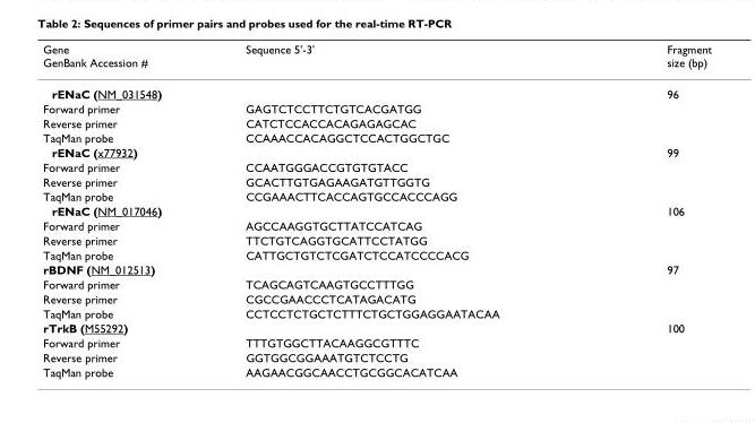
<table><thead><tr><td>Gene GenBank Accession #</td><td>Sequence 5&#x27;-3&#x27;</td><td>Fragment size (bp)</td></tr></thead><tbody><tr><td>rENaC (NM_031548)</td><td></td><td>96</td></tr><tr><td>Forward primer</td><td>GAGTCTCCTTCTGTCACGATGG</td><td></td></tr><tr><td>Reverse primer</td><td>CATCTCCACCACAGAGAGCAC</td><td></td></tr><tr><td>TaqMan probe</td><td>CCAAACCACAGGCTCCACTGGCTGC</td><td></td></tr><tr><td>rENaC (x77932)</td><td></td><td>99</td></tr><tr><td>Forward primer</td><td>CCAATGGGACCGTGTGTACC</td><td></td></tr><tr><td>Reverse primer</td><td>GCACTTGTGAGAAGATGTTGGTG</td><td></td></tr><tr><td>TaqMan probe</td><td>CCGAAACTTCACCAGTGCCACCCAGG</td><td></td></tr><tr><td>rENaC (NM_017046)</td><td></td><td>106</td></tr><tr><td>Forward primer</td><td>AGCCAAGGTGCTTATCCATCAG</td><td></td></tr><tr><td>Reverse primer</td><td>TTCTGTCAGGTGCATTCCTATGG</td><td></td></tr><tr><td>TaqMan probe</td><td>CATTGCTGTCTCGATCTCCATCCCCACG</td><td></td></tr><tr><td>rBDNF (NM_012513)</td><td></td><td>97</td></tr><tr><td>Forward primer</td><td>TCAGCAGTCAAGTGCCTTTGG</td><td></td></tr><tr><td>Reverse primer</td><td>CGCCGAACCCTCATAGACATG</td><td></td></tr><tr><td>TaqMan probe</td><td>CCTCCTCTGCTCTTTCTGCTGGAGGAATACAA</td><td></td></tr><tr><td>rTrkB (M55292)</td><td></td><td>100</td></tr><tr><td>Forward primer</td><td>TTTGTGGCTTACAAGGCGTTTC</td><td></td></tr><tr><td>Reverse primer</td><td>GGTGGCGGAAATGTCTCCTG</td><td></td></tr><tr><td>TaqMan probe</td><td>AAGAACGGCAACCTGCGGCACATCAA</td><td></td></tr></tbody></table>